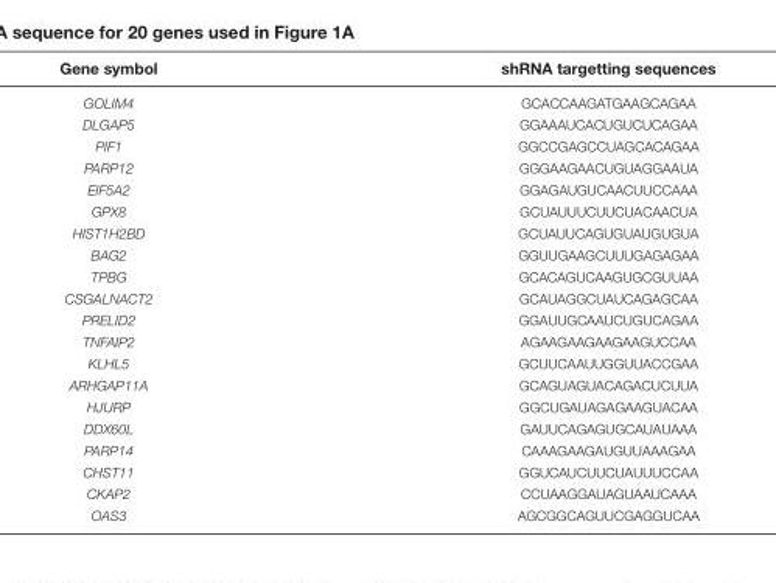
<table><thead><tr><td>Gene symbol</td><td>shRNA targetting sequences</td></tr></thead><tbody><tr><td>GOLIM4</td><td>GCACCAAGATGAAGCAGAA</td></tr><tr><td>DLGAP5</td><td>GGAAAUCACUGUCUCAGAA</td></tr><tr><td>PIF1</td><td>GGCCGAGCCUAGCACAGAA</td></tr><tr><td>PARP12</td><td>GGGAAGAACUGUAGGAAUA</td></tr><tr><td>EIF5A2</td><td>GGAGAUGUCAACUUCCAAA</td></tr><tr><td>GPX8</td><td>GCUAUUUCUUCUACAACUA</td></tr><tr><td>HIST1H2BD</td><td>GCUAUUCAGUGUAUGUGUA</td></tr><tr><td>BAG2</td><td>GGUUGAAGCUUUGAGAGAA</td></tr><tr><td>TPBG</td><td>GCACAGUCAAGUGCGUUAA</td></tr><tr><td>CSGALNACT2</td><td>GCAUAGGCUAUCAGAGCAA</td></tr><tr><td>PRELID2</td><td>GGAUUGCAAUCUGUCAGAA</td></tr><tr><td>TNFAIP2</td><td>AGAAGAAGAAGAAGUCCAA</td></tr><tr><td>KLHL5</td><td>GCUUCAAUUGGUUACCGAA</td></tr><tr><td>ARHGAP11A</td><td>GCAGUAGUACAGACUCUUA</td></tr><tr><td>HJURP</td><td>GGCUGAUAGAGAAGUACAA</td></tr><tr><td>DDX60L</td><td>GAUUCAGAGUGCAUAUAAA</td></tr><tr><td>PARP14</td><td>CAAAGAAGAUGUUAAAGAA</td></tr><tr><td>CHST11</td><td>GGUCAUCUUCUAUUUCCAA</td></tr><tr><td>CKAP2</td><td>CCUAAGGAUAGUAAUCAAA</td></tr><tr><td>OAS3</td><td>AGCGGCAGUUCGAGGUCAA</td></tr></tbody></table>